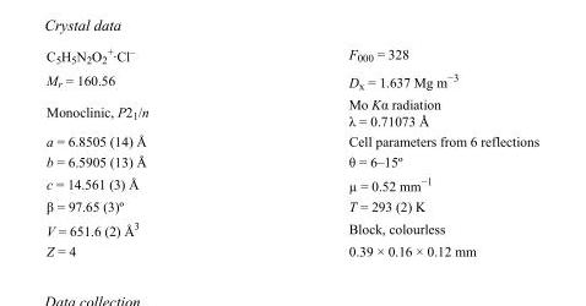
<table><tbody><tr><td>C<sub>5</sub>H<sub>5</sub>N<sub>2</sub>O<sub>2</sub> <sup>+</sup>·Cl<sup>–</sup></td><td>F<sub>000</sub> = 328</td></tr><tr><td>M<sub>r</sub> = 160.56</td><td>D<sub>x</sub> = 1.637 Mg m<sup>−3</sup></td></tr><tr><td>Monoclinic, P2<sub>1</sub>/n</td><td>Mo Kα radiation λ = 0.71073 Å</td></tr><tr><td>a = 6.8505 (14) Å</td><td>Cell parameters from 6 reflections</td></tr><tr><td>b = 6.5905 (13) Å</td><td>θ = 6–15º</td></tr><tr><td>c = 14.561 (3) Å</td><td>µ = 0.52 mm<sup>−1</sup></td></tr><tr><td>β = 97.65 (3)º</td><td>T = 293 (2) K</td></tr><tr><td>V = 651.6 (2) Å<sup>3</sup></td><td>Block, colourless</td></tr><tr><td>Z = 4</td><td>0.39 × 0.16 × 0.12 mm</td></tr></tbody></table>